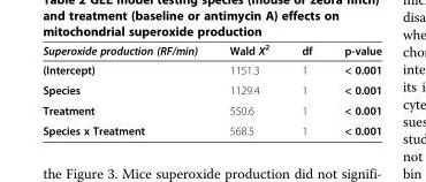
<table><thead><tr><td>Superoxide production (RF/min)</td><td>Wald Χ2</td><td>df</td><td>p-value</td></tr></thead><tbody><tr><td>(Intercept)</td><td>1151.3</td><td>1</td><td>&lt; 0.001</td></tr><tr><td>Species</td><td>1129.4</td><td>1</td><td>&lt; 0.001</td></tr><tr><td>Treatment</td><td>550.6</td><td>1</td><td>&lt; 0.001</td></tr><tr><td>Species x Treatment</td><td>568.5</td><td>1</td><td>&lt; 0.001</td></tr></tbody></table>